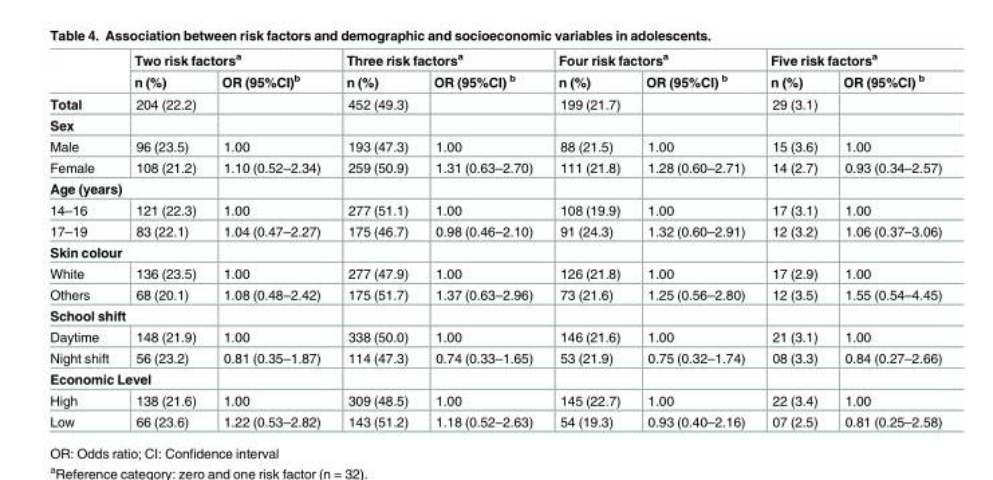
<table><thead><tr><td rowspan="2"></td><td colspan="2">Two risk factors<sup>a</sup></td><td colspan="2">Three risk factors<sup>a</sup></td><td colspan="2">Four risk factors<sup>a</sup></td><td colspan="2">Five risk factors<sup>a</sup></td></tr><tr><td>n (%)</td><td>OR (95%CI)<sup>b</sup></td><td>n (%)</td><td>OR (95%CI) <sup>b</sup></td><td>n (%)</td><td>OR (95%CI) <sup>b</sup></td><td>n (%)</td><td>OR (95%CI) <sup>b</sup></td></tr></thead><tbody><tr><td>Total</td><td>204 (22.2)</td><td></td><td>452 (49.3)</td><td></td><td>199 (21.7)</td><td></td><td>29 (3.1)</td><td></td></tr><tr><td colspan="9">Sex</td></tr><tr><td>Male</td><td>96 (23.5)</td><td>1.00</td><td>193 (47.3)</td><td>1.00</td><td>88 (21.5)</td><td>1.00</td><td>15 (3.6)</td><td>1.00</td></tr><tr><td>Female</td><td>108 (21.2)</td><td>1.10 (0.52–2.34)</td><td>259 (50.9)</td><td>1.31 (0.63–2.70)</td><td>111 (21.8)</td><td>1.28 (0.60–2.71)</td><td>14 (2.7)</td><td>0.93 (0.34–2.57)</td></tr><tr><td colspan="9">Age (years)</td></tr><tr><td>14–16</td><td>121 (22.3)</td><td>1.00</td><td>277 (51.1)</td><td>1.00</td><td>108 (19.9)</td><td>1.00</td><td>17 (3.1)</td><td>1.00</td></tr><tr><td>17–19</td><td>83 (22.1)</td><td>1.04 (0.47–2.27)</td><td>175 (46.7)</td><td>0.98 (0.46–2.10)</td><td>91 (24.3)</td><td>1.32 (0.60–2.91)</td><td>12 (3.2)</td><td>1.06 (0.37–3.06)</td></tr><tr><td colspan="9">Skin colour</td></tr><tr><td>White</td><td>136 (23.5)</td><td>1.00</td><td>277 (47.9)</td><td>1.00</td><td>126 (21.8)</td><td>1.00</td><td>17 (2.9)</td><td>1.00</td></tr><tr><td>Others</td><td>68 (20.1)</td><td>1.08 (0.48–2.42)</td><td>175 (51.7)</td><td>1.37 (0.63–2.96)</td><td>73 (21.6)</td><td>1.25 (0.56–2.80)</td><td>12 (3.5)</td><td>1.55 (0.54–4.45)</td></tr><tr><td colspan="9">School shift</td></tr><tr><td>Daytime</td><td>148 (21.9)</td><td>1.00</td><td>338 (50.0)</td><td>1.00</td><td>146 (21.6)</td><td>1.00</td><td>21 (3.1)</td><td>1.00</td></tr><tr><td>Night shift</td><td>56 (23.2)</td><td>0.81 (0.35–1.87)</td><td>114 (47.3)</td><td>0.74 (0.33–1.65)</td><td>53 (21.9)</td><td>0.75 (0.32–1.74)</td><td>08 (3.3)</td><td>0.84 (0.27–2.66)</td></tr><tr><td colspan="9">Economic Level</td></tr><tr><td>High</td><td>138 (21.6)</td><td>1.00</td><td>309 (48.5)</td><td>1.00</td><td>145 (22.7)</td><td>1.00</td><td>22 (3.4)</td><td>1.00</td></tr><tr><td>Low</td><td>66 (23.6)</td><td>1.22 (0.53–2.82)</td><td>143 (51.2)</td><td>1.18 (0.52–2.63)</td><td>54 (19.3)</td><td>0.93 (0.40–2.16)</td><td>07 (2.5)</td><td>0.81 (0.25–2.58)</td></tr></tbody></table>